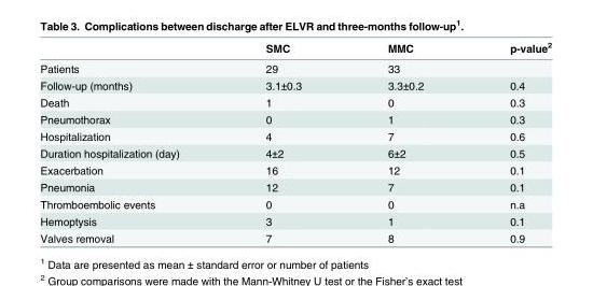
<table><thead><tr><td></td><td>SMC</td><td>MMC</td><td>p-value<sup>2</sup></td></tr></thead><tbody><tr><td>Patients</td><td>29</td><td>33</td><td></td></tr><tr><td>Follow-up (months)</td><td>3.1±0.3</td><td>3.3±0.2</td><td>0.4</td></tr><tr><td>Death</td><td>1</td><td>0</td><td>0.3</td></tr><tr><td>Pneumothorax</td><td>0</td><td>1</td><td>0.3</td></tr><tr><td>Hospitalization</td><td>4</td><td>7</td><td>0.6</td></tr><tr><td>Duration hospitalization (day)</td><td>4±2</td><td>6±2</td><td>0.5</td></tr><tr><td>Exacerbation</td><td>16</td><td>12</td><td>0.1</td></tr><tr><td>Pneumonia</td><td>12</td><td>7</td><td>0.1</td></tr><tr><td>Thromboembolic events</td><td>0</td><td>0</td><td>n.a</td></tr><tr><td>Hemoptysis</td><td>3</td><td>1</td><td>0.1</td></tr><tr><td>Valves removal</td><td>7</td><td>8</td><td>0.9</td></tr></tbody></table>